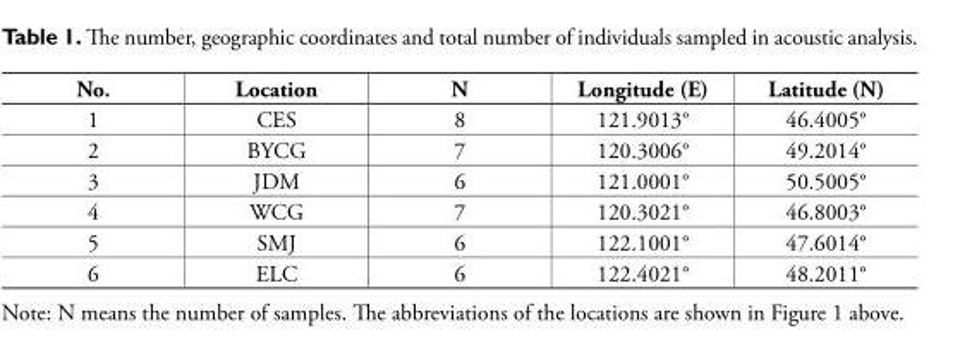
<table><thead><tr><td>No.</td><td>Location</td><td>N</td><td>Longitude (E)</td><td>Latitude (N)</td></tr></thead><tbody><tr><td>1</td><td>CES</td><td>8</td><td>121.9013°</td><td>46.4005°</td></tr><tr><td>2</td><td>BYCG</td><td>7</td><td>120.3006°</td><td>49.2014°</td></tr><tr><td>3</td><td>JDM</td><td>6</td><td>121.0001°</td><td>50.5005°</td></tr><tr><td>4</td><td>WCG</td><td>7</td><td>120.3021°</td><td>46.8003°</td></tr><tr><td>5</td><td>SMJ</td><td>6</td><td>122.1001°</td><td>47.6014°</td></tr><tr><td>6</td><td>ELC</td><td>6</td><td>122.4021°</td><td>48.2011°</td></tr></tbody></table>